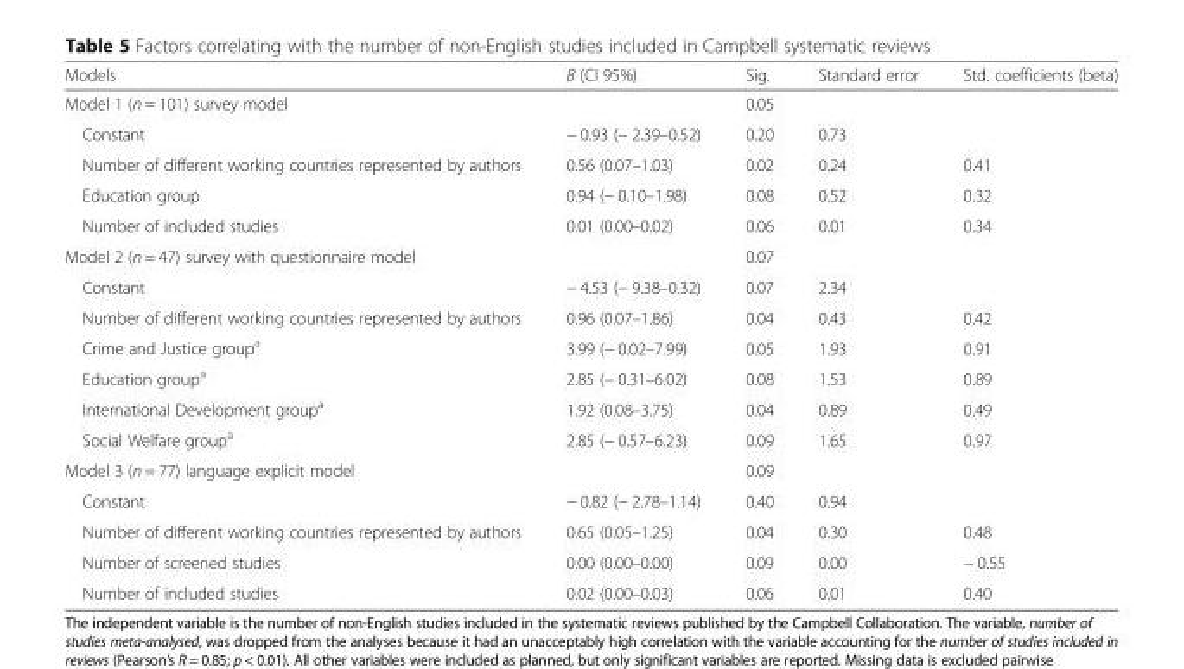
<table><thead><tr><td>Models</td><td>B (CI 95%)</td><td>Sig.</td><td>Standard error</td><td>Std. coefficients (beta)</td></tr></thead><tbody><tr><td>Model 1 (n = 101) survey model</td><td></td><td>0.05</td><td></td><td></td></tr><tr><td>Constant</td><td>− 0.93 (− 2.39–0.52)</td><td>0.20</td><td>0.73</td><td></td></tr><tr><td>Number of different working countries represented by authors</td><td>0.56 (0.07–1.03)</td><td>0.02</td><td>0.24</td><td>0.41</td></tr><tr><td>Education group</td><td>0.94 (− 0.10–1.98)</td><td>0.08</td><td>0.52</td><td>0.32</td></tr><tr><td>Number of included studies</td><td>0.01 (0.00–0.02)</td><td>0.06</td><td>0.01</td><td>0.34</td></tr><tr><td>Model 2 (n = 47) survey with questionnaire model</td><td></td><td>0.07</td><td></td><td></td></tr><tr><td>Constant</td><td>− 4.53 (− 9.38–0.32)</td><td>0.07</td><td>2.34</td><td></td></tr><tr><td>Number of different working countries represented by authors</td><td>0.96 (0.07–1.86)</td><td>0.04</td><td>0.43</td><td>0.42</td></tr><tr><td>Crime and Justice group<sup>a</sup></td><td>3.99 (− 0.02–7.99)</td><td>0.05</td><td>1.93</td><td>0.91</td></tr><tr><td>Education group<sup>a</sup></td><td>2.85 (− 0.31–6.02)</td><td>0.08</td><td>1.53</td><td>0.89</td></tr><tr><td>International Development group<sup>a</sup></td><td>1.92 (0.08–3.75)</td><td>0.04</td><td>0.89</td><td>0.49</td></tr><tr><td>Social Welfare group<sup>a</sup></td><td>2.85 (− 0.57–6.23)</td><td>0.09</td><td>1.65</td><td>0.97</td></tr><tr><td>Model 3 (n = 77) language explicit model</td><td></td><td>0.09</td><td></td><td></td></tr><tr><td>Constant</td><td>− 0.82 (− 2.78–1.14)</td><td>0.40</td><td>0.94</td><td></td></tr><tr><td>Number of different working countries represented by authors</td><td>0.65 (0.05–1.25)</td><td>0.04</td><td>0.30</td><td>0.48</td></tr><tr><td>Number of screened studies</td><td>0.00 (0.00–0.00)</td><td>0.09</td><td>0.00</td><td>− 0.55</td></tr><tr><td>Number of included studies</td><td>0.02 (0.00–0.03)</td><td>0.06</td><td>0.01</td><td>0.40</td></tr></tbody></table>